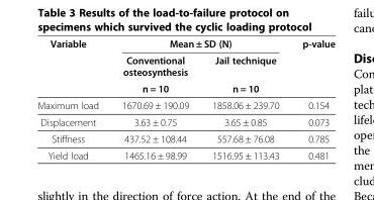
<table><thead><tr><td rowspan="3">Variable</td><td colspan="2">Mean ± SD (N)</td><td rowspan="3">p-value</td></tr><tr><td rowspan="2">Conventional osteosynthesis n = 10</td><td rowspan="2">Jail technique n = 10</td></tr><tr></tr></thead><tbody><tr><td>Maximum load</td><td>1670.69 ± 190.09</td><td>1858.06 ± 239.70</td><td>0.154</td></tr><tr><td>Displacement</td><td>3.63 ± 0.75</td><td>3.65 ± 0.85</td><td>0.073</td></tr><tr><td>Stiffness</td><td>437.52 ± 108.44</td><td>557.68 ± 76.08</td><td>0.785</td></tr><tr><td>Yield load</td><td>1465.16 ± 98.99</td><td>1516.95 ± 113.43</td><td>0.481</td></tr></tbody></table>